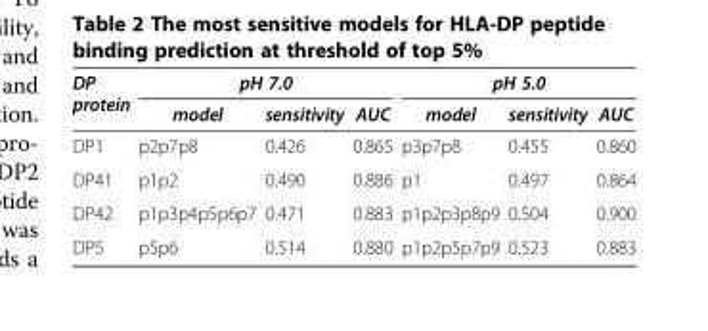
<table><thead><tr><td rowspan="2">DP protein</td><td colspan="3">pH 7.0</td><td colspan="3">pH 5.0</td></tr><tr><td>model</td><td>sensitivity</td><td>AUC</td><td>model</td><td>sensitivity</td><td>AUC</td></tr></thead><tbody><tr><td>DP1</td><td>p2p7p8</td><td>0.426</td><td>0.865</td><td>p3p7p8</td><td>0.455</td><td>0.860</td></tr><tr><td>DP41</td><td>p1p2</td><td>0.490</td><td>0.886</td><td>p1</td><td>0.497</td><td>0.864</td></tr><tr><td>DP42</td><td>p1p3p4p5p6p7</td><td>0.471</td><td>0.883</td><td>p1p2p3p8p9</td><td>0.504</td><td>0.900</td></tr><tr><td>DP5</td><td>p5p6</td><td>0.514</td><td>0.880</td><td>p1p2p5p7p9</td><td>0.523</td><td>0.883</td></tr></tbody></table>